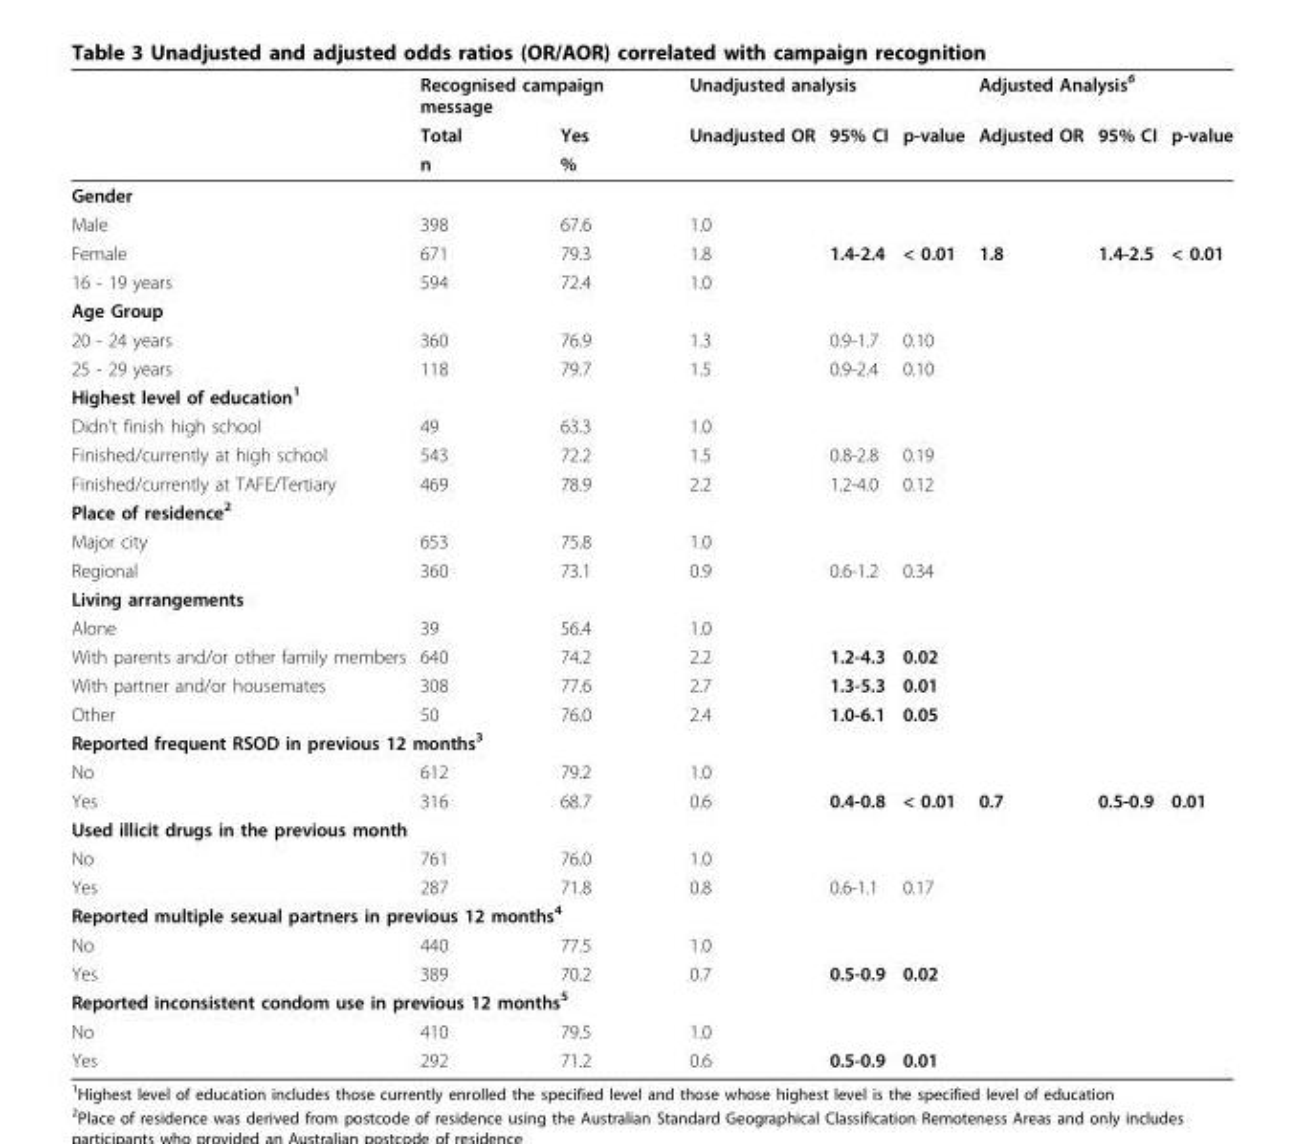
<table><thead><tr><td rowspan="3"></td><td colspan="2">Recognised campaign message</td><td colspan="3">Unadjusted analysis</td><td colspan="3">Adjusted Analysis<sup>6</sup></td></tr><tr><td rowspan="2">Total n</td><td rowspan="2">Yes %</td><td rowspan="2">Unadjusted OR</td><td rowspan="2">95% CI</td><td rowspan="2">p-value</td><td rowspan="2">Adjusted OR</td><td rowspan="2">95% CI</td><td rowspan="2">p-value</td></tr><tr></tr></thead><tbody><tr><td colspan="9">Gender</td></tr><tr><td>Male</td><td>398</td><td>67.6</td><td>1.0</td><td></td><td></td><td></td><td></td><td></td></tr><tr><td>Female</td><td>671</td><td>79.3</td><td>1.8</td><td>1.4-2.4</td><td>&lt; 0.01</td><td>1.8</td><td>1.4-2.5</td><td>&lt; 0.01</td></tr><tr><td>16 - 19 years</td><td>594</td><td>72.4</td><td>1.0</td><td></td><td></td><td></td><td></td><td></td></tr><tr><td colspan="9">Age Group</td></tr><tr><td>20 - 24 years</td><td>360</td><td>76.9</td><td>1.3</td><td>0.9-1.7</td><td>0.10</td><td></td><td></td><td></td></tr><tr><td>25 - 29 years</td><td>118</td><td>79.7</td><td>1.5</td><td>0.9-2.4</td><td>0.10</td><td></td><td></td><td></td></tr><tr><td colspan="9">Highest level of education<sup>1</sup></td></tr><tr><td>Didn’t finish high school</td><td>49</td><td>63.3</td><td>1.0</td><td></td><td></td><td></td><td></td><td></td></tr><tr><td>Finished/currently at high school</td><td>543</td><td>72.2</td><td>1.5</td><td>0.8-2.8</td><td>0.19</td><td></td><td></td><td></td></tr><tr><td>Finished/currently at TAFE/Tertiary</td><td>469</td><td>78.9</td><td>2.2</td><td>1.2-4.0</td><td>0.12</td><td></td><td></td><td></td></tr><tr><td colspan="9">Place of residence<sup>2</sup></td></tr><tr><td>Major city</td><td>653</td><td>75.8</td><td>1.0</td><td></td><td></td><td></td><td></td><td></td></tr><tr><td>Regional</td><td>360</td><td>73.1</td><td>0.9</td><td>0.6-1.2</td><td>0.34</td><td></td><td></td><td></td></tr><tr><td colspan="9">Living arrangements</td></tr><tr><td>Alone</td><td>39</td><td>56.4</td><td>1.0</td><td></td><td></td><td></td><td></td><td></td></tr><tr><td>With parents and/or other family members</td><td>640</td><td>74.2</td><td>2.2</td><td>1.2-4.3</td><td>0.02</td><td></td><td></td><td></td></tr><tr><td>With partner and/or housemates</td><td>308</td><td>77.6</td><td>2.7</td><td>1.3-5.3</td><td>0.01</td><td></td><td></td><td></td></tr><tr><td>Other</td><td>50</td><td>76.0</td><td>2.4</td><td>1.0-6.1</td><td>0.05</td><td></td><td></td><td></td></tr><tr><td colspan="9">Reported frequent RSOD in previous 12 months<sup>3</sup></td></tr><tr><td>No</td><td>612</td><td>79.2</td><td>1.0</td><td></td><td></td><td></td><td></td><td></td></tr><tr><td>Yes</td><td>316</td><td>68.7</td><td>0.6</td><td>0.4-0.8</td><td>&lt; 0.01</td><td>0.7</td><td>0.5-0.9</td><td>0.01</td></tr><tr><td colspan="9">Used illicit drugs in the previous month</td></tr><tr><td>No</td><td>761</td><td>76.0</td><td>1.0</td><td></td><td></td><td></td><td></td><td></td></tr><tr><td>Yes</td><td>287</td><td>71.8</td><td>0.8</td><td>0.6-1.1</td><td>0.17</td><td></td><td></td><td></td></tr><tr><td colspan="9">Reported multiple sexual partners in previous 12 months<sup>4</sup></td></tr><tr><td>No</td><td>440</td><td>77.5</td><td>1.0</td><td></td><td></td><td></td><td></td><td></td></tr><tr><td>Yes</td><td>389</td><td>70.2</td><td>0.7</td><td>0.5-0.9</td><td>0.02</td><td></td><td></td><td></td></tr><tr><td colspan="9">Reported inconsistent condom use in previous 12 months<sup>5</sup></td></tr><tr><td>No</td><td>410</td><td>79.5</td><td>1.0</td><td></td><td></td><td></td><td></td><td></td></tr><tr><td>Yes</td><td>292</td><td>71.2</td><td>0.6</td><td>0.5-0.9</td><td>0.01</td><td></td><td></td><td></td></tr></tbody></table>